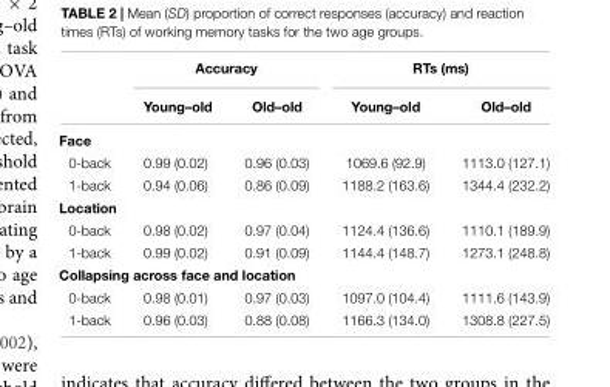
<table><thead><tr><td rowspan="2"></td><td colspan="2">Accuracy</td><td colspan="2">RTs (ms)</td></tr><tr><td>Young–old</td><td>Old–old</td><td>Young–old</td><td>Old–old</td></tr></thead><tbody><tr><td colspan="5">Face</td></tr><tr><td>0-back</td><td>0.99 (0.02)</td><td>0.96 (0.03)</td><td>1069.6 (92.9)</td><td>1113.0 (127.1)</td></tr><tr><td>1-back</td><td>0.94 (0.06)</td><td>0.86 (0.09)</td><td>1188.2 (163.6)</td><td>1344.4 (232.2)</td></tr><tr><td colspan="5">Location</td></tr><tr><td>0-back</td><td>0.98 (0.02)</td><td>0.97 (0.04)</td><td>1124.4 (136.6)</td><td>1110.1 (189.9)</td></tr><tr><td>1-back</td><td>0.99 (0.02)</td><td>0.91 (0.09)</td><td>1144.4 (148.7)</td><td>1273.1 (248.8)</td></tr><tr><td colspan="5">Collapsing across face and location</td></tr><tr><td>0-back</td><td>0.98 (0.01)</td><td>0.97 (0.03)</td><td>1097.0 (104.4)</td><td>1111.6 (143.9)</td></tr><tr><td>1-back</td><td>0.96 (0.03)</td><td>0.88 (0.08)</td><td>1166.3 (134.0)</td><td>1308.8 (227.5)</td></tr></tbody></table>